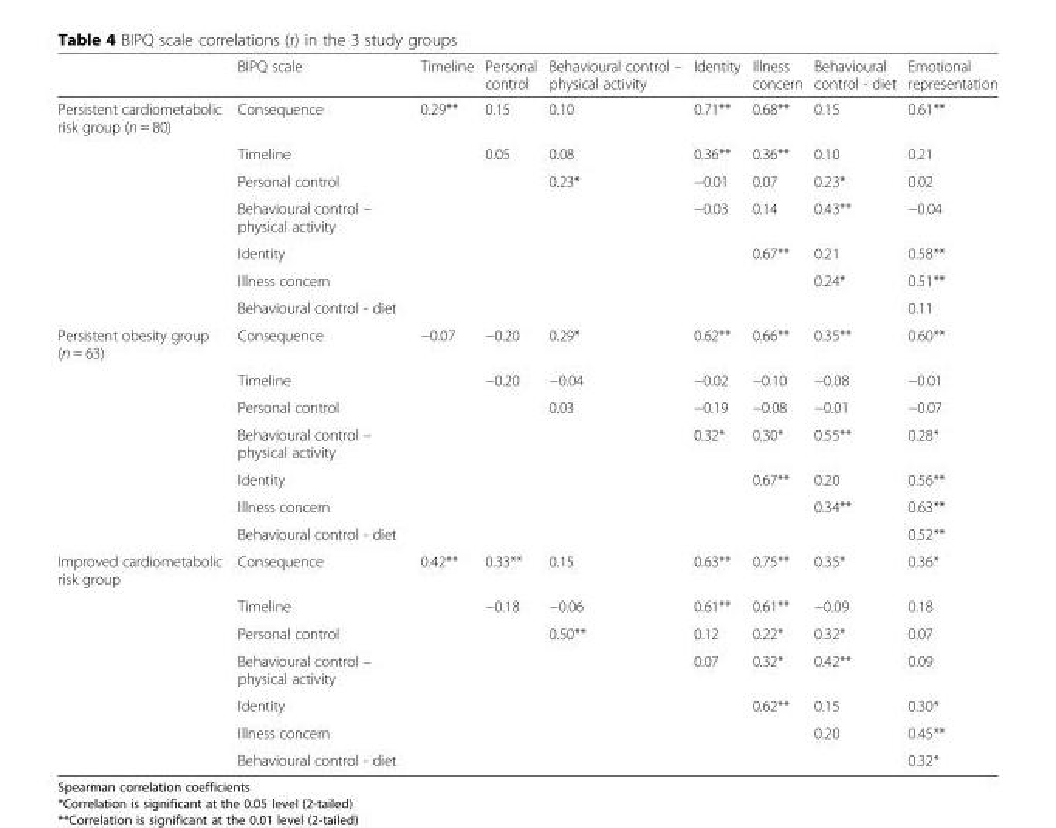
<table><thead><tr><td></td><td>BIPQ scale</td><td>Timeline</td><td>Personal control</td><td>Behavioural control – physical activity</td><td>Identity</td><td>Illness concern</td><td>Behavioural control - diet</td><td>Emotional representation</td></tr></thead><tbody><tr><td rowspan="7">Persistent cardiometabolic risk group (n = 80)</td><td>Consequence</td><td>0.29**</td><td>0.15</td><td>0.10</td><td>0.71**</td><td>0.68**</td><td>0.15</td><td>0.61**</td></tr><tr><td>Timeline</td><td></td><td>0.05</td><td>0.08</td><td>0.36**</td><td>0.36**</td><td>0.10</td><td>0.21</td></tr><tr><td>Personal control</td><td></td><td></td><td>0.23*</td><td>−0.01</td><td>0.07</td><td>0.23*</td><td>0.02</td></tr><tr><td>Behavioural control – physical activity</td><td></td><td></td><td></td><td>−0.03</td><td>0.14</td><td>0.43**</td><td>−0.04</td></tr><tr><td>Identity</td><td></td><td></td><td></td><td></td><td>0.67**</td><td>0.21</td><td>0.58**</td></tr><tr><td>Illness concern</td><td></td><td></td><td></td><td></td><td></td><td>0.24*</td><td>0.51**</td></tr><tr><td>Behavioural control - diet</td><td></td><td></td><td></td><td></td><td></td><td></td><td>0.11</td></tr><tr><td rowspan="7">Persistent obesity group (n = 63)</td><td>Consequence</td><td>−0.07</td><td>−0.20</td><td>0.29*</td><td>0.62**</td><td>0.66**</td><td>0.35**</td><td>0.60**</td></tr><tr><td>Timeline</td><td></td><td>−0.20</td><td>−0.04</td><td>−0.02</td><td>−0.10</td><td>−0.08</td><td>−0.01</td></tr><tr><td>Personal control</td><td></td><td></td><td>0.03</td><td>−0.19</td><td>−0.08</td><td>−0.01</td><td>−0.07</td></tr><tr><td>Behavioural control – physical activity</td><td></td><td></td><td></td><td>0.32*</td><td>0.30*</td><td>0.55**</td><td>0.28*</td></tr><tr><td>Identity</td><td></td><td></td><td></td><td></td><td>0.67**</td><td>0.20</td><td>0.56**</td></tr><tr><td>Illness concern</td><td></td><td></td><td></td><td></td><td></td><td>0.34**</td><td>0.63**</td></tr><tr><td>Behavioural control - diet</td><td></td><td></td><td></td><td></td><td></td><td></td><td>0.52**</td></tr><tr><td rowspan="7">Improved cardiometabolic risk group</td><td>Consequence</td><td>0.42**</td><td>0.33**</td><td>0.15</td><td>0.63**</td><td>0.75**</td><td>0.35*</td><td>0.36*</td></tr><tr><td>Timeline</td><td></td><td>−0.18</td><td>−0.06</td><td>0.61**</td><td>0.61**</td><td>−0.09</td><td>0.18</td></tr><tr><td>Personal control</td><td></td><td></td><td>0.50**</td><td>0.12</td><td>0.22*</td><td>0.32*</td><td>0.07</td></tr><tr><td>Behavioural control – physical activity</td><td></td><td></td><td></td><td>0.07</td><td>0.32*</td><td>0.42**</td><td>0.09</td></tr><tr><td>Identity</td><td></td><td></td><td></td><td></td><td>0.62**</td><td>0.15</td><td>0.30*</td></tr><tr><td>Illness concern</td><td></td><td></td><td></td><td></td><td></td><td>0.20</td><td>0.45**</td></tr><tr><td>Behavioural control - diet</td><td></td><td></td><td></td><td></td><td></td><td></td><td>0.32*</td></tr></tbody></table>